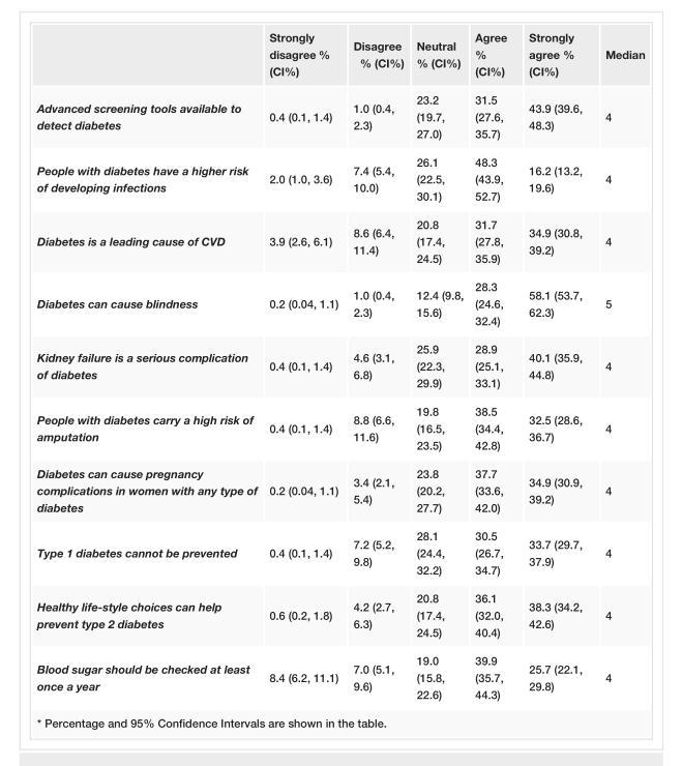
<table><thead><tr><td></td><td>Strongly disagree % (CI%)</td><td>Disagree % (CI%)</td><td>Neutral % (CI%)</td><td>Agree % (CI%)</td><td>Strongly agree % (CI%)</td><td>Median</td></tr></thead><tbody><tr><td>Advanced screening tools available to detect diabetes</td><td>0.4 (0.1, 1.4)</td><td>1.0 (0.4, 2.3)</td><td>23.2 (19.7, 27.0)</td><td>31.5 (27.6, 35.7)</td><td>43.9 (39.6, 48.3)</td><td>4</td></tr><tr><td>People with diabetes have a higher risk of developing infections</td><td>2.0 (1.0, 3.6)</td><td>7.4 (5.4, 10.0)</td><td>26.1 (22.5, 30.1)</td><td>48.3 (43.9, 52.7)</td><td>16.2 (13.2, 19.6)</td><td>4</td></tr><tr><td>Diabetes is a leading cause of CVD</td><td>3.9 (2.6, 6.1)</td><td>8.6 (6.4, 11.4)</td><td>20.8 (17.4, 24.5)</td><td>31.7 (27.8, 35.9)</td><td>34.9 (30.8, 39.2)</td><td>4</td></tr><tr><td>Diabetes can cause blindness</td><td>0.2 (0.04, 1.1)</td><td>1.0 (0.4, 2.3)</td><td>12.4 (9.8, 15.6)</td><td>28.3 (24.6, 32.4)</td><td>58.1 (53.7, 62.3)</td><td>5</td></tr><tr><td>Kidney failure is a serious complication of diabetes</td><td>0.4 (0.1, 1.4)</td><td>4.6 (3.1, 6.8)</td><td>25.9 (22.3, 29.9)</td><td>28.9 (25.1, 33.1)</td><td>40.1 (35.9, 44.8)</td><td>4</td></tr><tr><td>People with diabetes carry a high risk of amputation</td><td>0.4 (0.1, 1.4)</td><td>8.8 (6.6, 11.6)</td><td>19.8 (16.5, 23.5)</td><td>38.5 (34.4, 42.8)</td><td>32.5 (28.6, 36.7)</td><td>4</td></tr><tr><td>Diabetes can cause pregnancy complications in women with any type of diabetes</td><td>0.2 (0.04, 1.1)</td><td>3.4 (2.1, 5.4)</td><td>23.8 (20.2, 27.7)</td><td>37.7 (33.6, 42.0)</td><td>34.9 (30.9, 39.2)</td><td>4</td></tr><tr><td>Type 1 diabetes cannot be prevented</td><td>0.4 (0.1, 1.4)</td><td>7.2 (5.2, 9.8)</td><td>28.1 (24.4, 32.2)</td><td>30.5 (26.7, 34.7)</td><td>33.7 (29.7, 37.9)</td><td>4</td></tr><tr><td>Healthy life-style choices can help prevent type 2 diabetes</td><td>0.6 (0.2, 1.8)</td><td>4.2 (2.7, 6.3)</td><td>20.8 (17.4, 24.5)</td><td>36.1 (32.0, 40.4)</td><td>38.3 (34.2, 42.6)</td><td>4</td></tr><tr><td>Blood sugar should be checked at least once a year</td><td>8.4 (6.2, 11.1)</td><td>7.0 (5.1, 9.6)</td><td>19.0 (15.8, 22.6)</td><td>39.9 (35.7, 44.3)</td><td>25.7 (22.1, 29.8)</td><td>4</td></tr><tr><td colspan="7">* Percentage and 95% Confidence Intervals are shown in the table.</td></tr></tbody></table>